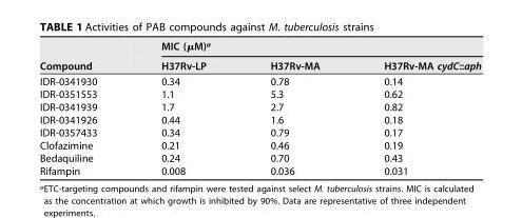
<table><thead><tr><td rowspan="2">Compound</td><td colspan="3">MIC (μM)<sup>a</sup></td></tr><tr><td>H37Rv-LP</td><td>H37Rv-MA</td><td>H37Rv-MA cydC::aph</td></tr></thead><tbody><tr><td>IDR-0341930</td><td>0.34</td><td>0.78</td><td>0.14</td></tr><tr><td>IDR-0351553</td><td>1.1</td><td>5.3</td><td>0.62</td></tr><tr><td>IDR-0341939</td><td>1.7</td><td>2.7</td><td>0.82</td></tr><tr><td>IDR-0341926</td><td>0.44</td><td>1.6</td><td>0.18</td></tr><tr><td>IDR-0357433</td><td>0.34</td><td>0.79</td><td>0.17</td></tr><tr><td>Clofazimine</td><td>0.21</td><td>0.46</td><td>0.19</td></tr><tr><td>Bedaquiline</td><td>0.24</td><td>0.70</td><td>0.43</td></tr><tr><td>Rifampin</td><td>0.008</td><td>0.036</td><td>0.031</td></tr></tbody></table>